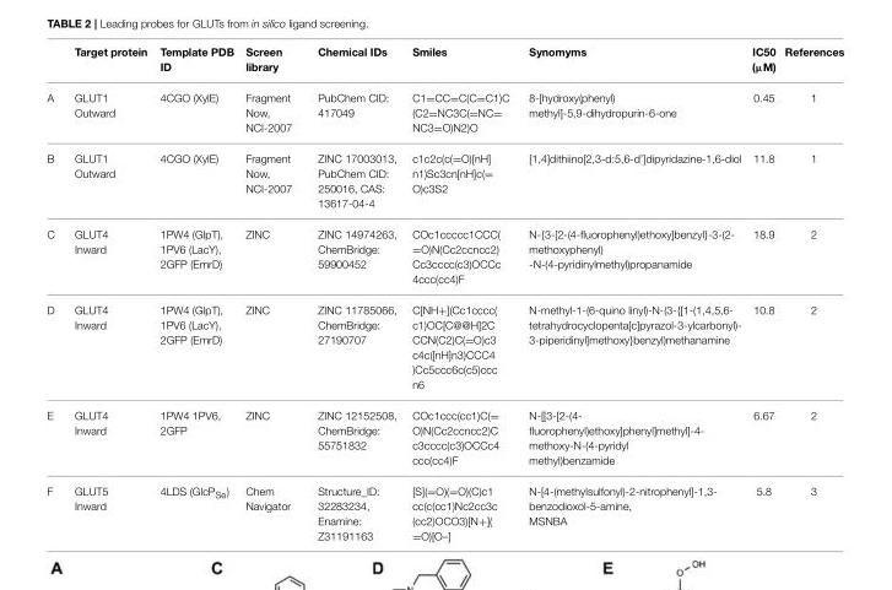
<table><thead><tr><td></td><td>Target protein</td><td>Template PDB ID</td><td>Screen library</td><td>Chemical IDs</td><td>Smiles</td><td>Synomyms</td><td>IC50 (µM)</td><td>References</td></tr></thead><tbody><tr><td>A</td><td>GLUT1 Outward</td><td>4CGO (XylE)</td><td>Fragment Now, NCI-2007</td><td>PubChem CID: 417049</td><td>C1=CC=C(C=C1)C (C2=NC3C(=NC= NC3=O)N2)O</td><td>8-[hydroxy(phenyl) methyl]-5,9-dihydropurin-6-one</td><td>0.45</td><td>1</td></tr><tr><td>B</td><td>GLUT1 Outward</td><td>4CGO (XylE)</td><td>Fragment Now, NCI-2007</td><td>ZINC 17003013, PubChem CID: 250016, CAS: 13617-04-4</td><td>c1c2c(c(=O)[nH] n1)Sc3cn[nH]c(= O)c3S2</td><td>[1,4]dithiino[2,3-d:5,6-d’]dipyridazine-1,6-diol</td><td>11.8</td><td>1</td></tr><tr><td>C</td><td>GLUT4 Inward</td><td>1PW4 (GlpT), 1PV6 (LacY), 2GFP (EmrD)</td><td>ZINC</td><td>ZINC 14974263, ChemBridge: 59900452</td><td>COc1ccccc1CCC( =O)N(Cc2ccncc2) Cc3cccc(c3)OCCc 4ccc(cc4)F</td><td>N-{3-[2-(4-fluorophenyl)ethoxy]benzyl}-3-(2- methoxyphenyl) -N-(4-pyridinylmethyl)propanamide</td><td>18.9</td><td>2</td></tr><tr><td>D</td><td>GLUT4 Inward</td><td>1PW4 (GlpT), 1PV6 (LacY), 2GFP (EmrD)</td><td>ZINC</td><td>ZINC 11785066, ChemBridge: 27190707</td><td>C[NH+](Cc1cccc( c1)OC[C@@H]2C CCN(C2)C(=O)c3 c4c([nH]n3)CCC4 )Cc5ccc6c(c5)ccc n6</td><td>N-methyl-1-(6-quino linyl)-N-(3-{[1-(1,4,5,6- tetrahydrocyclopenta[c]pyrazol-3-ylcarbonyl)- 3-piperidinyl]methoxy}benzyl)methanamine</td><td>10.8</td><td>2</td></tr><tr><td>E</td><td>GLUT4 Inward</td><td>1PW4 1PV6, 2GFP</td><td>ZINC</td><td>ZINC 12152508, ChemBridge: 55751832</td><td>COc1ccc(cc1)C(= O)N(Cc2ccncc2)C c3cccc(c3)OCCc4 ccc(cc4)F</td><td>N-[[3-[2-(4- fluorophenyl)ethoxy]phenyl]methyl]-4- methoxy-N-(4-pyridyl methyl)benzamide</td><td>6.67</td><td>2</td></tr><tr><td>F</td><td>GLUT5 Inward</td><td>4LDS (GlcP<sub>Se</sub>)</td><td>Chem Navigator</td><td>Structure_ID: 32283234, Enamine: Z31191163</td><td>[S](=O)(=O)(C)c1 cc(c(cc1)Nc2cc3c (cc2)OCO3)[N+]( =O)[O–]</td><td>N-[4-(methylsulfonyl)-2-nitrophenyl]-1,3- benzodioxol-5-amine, MSNBA</td><td>5.8</td><td>3</td></tr></tbody></table>